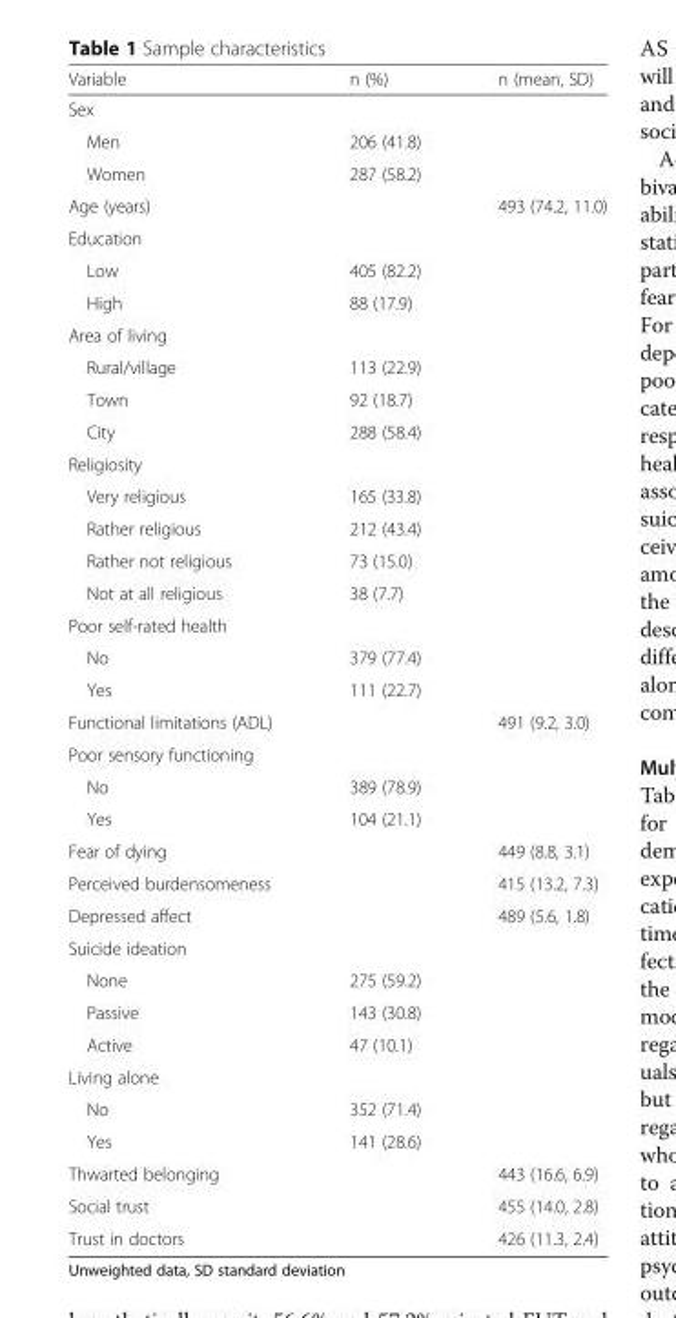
<table><thead><tr><td>Variable</td><td>n (%)</td><td>n (mean, SD)</td></tr></thead><tbody><tr><td colspan="3">Sex</td></tr><tr><td>Men</td><td>206 (41.8)</td><td></td></tr><tr><td>Women</td><td>287 (58.2)</td><td></td></tr><tr><td>Age (years)</td><td></td><td>493 (74.2, 11.0)</td></tr><tr><td colspan="3">Education</td></tr><tr><td>Low</td><td>405 (82.2)</td><td></td></tr><tr><td>High</td><td>88 (17.9)</td><td></td></tr><tr><td colspan="3">Area of living</td></tr><tr><td>Rural/village</td><td>113 (22.9)</td><td></td></tr><tr><td>Town</td><td>92 (18.7)</td><td></td></tr><tr><td>City</td><td>288 (58.4)</td><td></td></tr><tr><td colspan="3">Religiosity</td></tr><tr><td>Very religious</td><td>165 (33.8)</td><td></td></tr><tr><td>Rather religious</td><td>212 (43.4)</td><td></td></tr><tr><td>Rather not religious</td><td>73 (15.0)</td><td></td></tr><tr><td>Not at all religious</td><td>38 (7.7)</td><td></td></tr><tr><td colspan="3">Poor self-rated health</td></tr><tr><td>No</td><td>379 (77.4)</td><td></td></tr><tr><td>Yes</td><td>111 (22.7)</td><td></td></tr><tr><td>Functional limitations (ADL)</td><td></td><td>491 (9.2, 3.0)</td></tr><tr><td colspan="3">Poor sensory functioning</td></tr><tr><td>No</td><td>389 (78.9)</td><td></td></tr><tr><td>Yes</td><td>104 (21.1)</td><td></td></tr><tr><td>Fear of dying</td><td></td><td>449 (8.8, 3.1)</td></tr><tr><td>Perceived burdensomeness</td><td></td><td>415 (13.2, 7.3)</td></tr><tr><td>Depressed affect</td><td></td><td>489 (5.6, 1.8)</td></tr><tr><td colspan="3">Suicide ideation</td></tr><tr><td>None</td><td>275 (59.2)</td><td></td></tr><tr><td>Passive</td><td>143 (30.8)</td><td></td></tr><tr><td>Active</td><td>47 (10.1)</td><td></td></tr><tr><td colspan="3">Living alone</td></tr><tr><td>No</td><td>352 (71.4)</td><td></td></tr><tr><td>Yes</td><td>141 (28.6)</td><td></td></tr><tr><td>Thwarted belonging</td><td></td><td>443 (16.6, 6.9)</td></tr><tr><td>Social trust</td><td></td><td>455 (14.0, 2.8)</td></tr><tr><td>Trust in doctors</td><td></td><td>426 (11.3, 2.4)</td></tr></tbody></table>